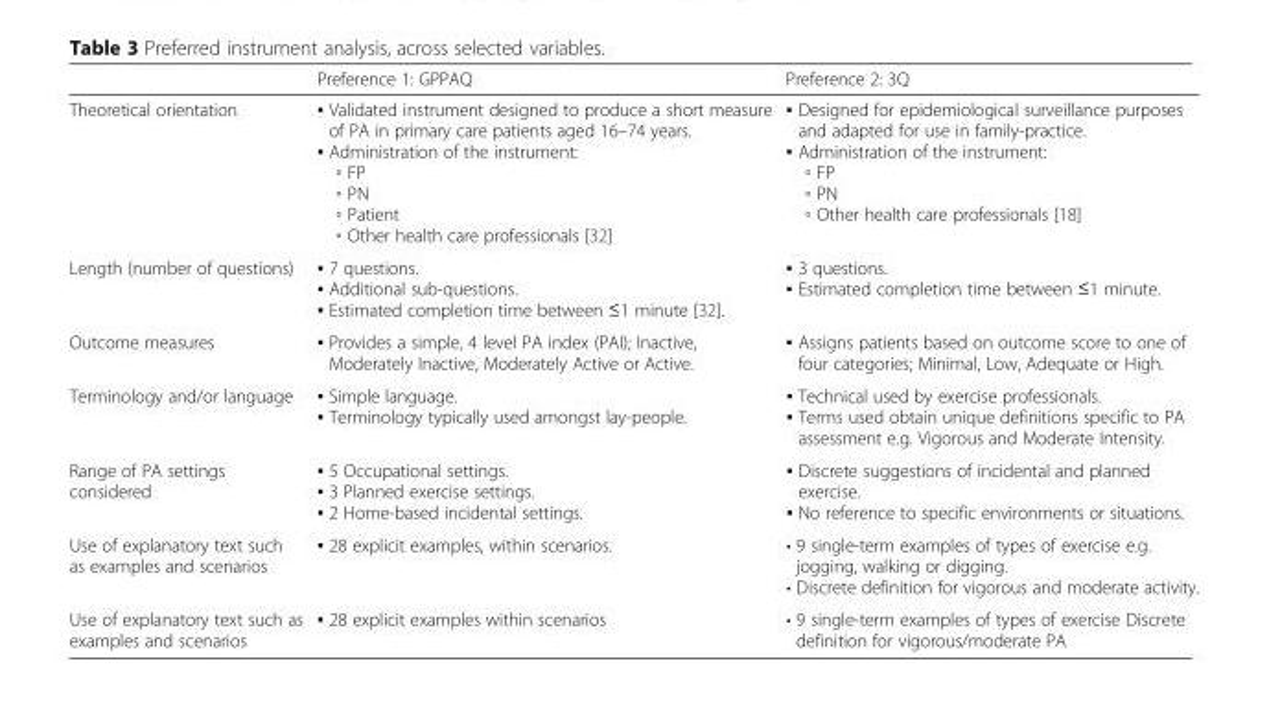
<table><thead><tr><td></td><td>Preference 1: GPPAQ</td><td>Preference 2: 3Q</td></tr></thead><tbody><tr><td>Theoretical orientation</td><td>▪ Validated instrument designed to produce a short measure of PA in primary care patients aged 16–74 years. ▪ Administration of the instrument: ◦ FP ◦ PN ◦ Patient ◦ Other health care professionals [32]</td><td>▪ Designed for epidemiological surveillance purposes and adapted for use in family-practice. ▪ Administration of the instrument: ◦ FP ◦ PN ◦ Other health care professionals [18]</td></tr><tr><td>Length (number of questions)</td><td>▪ 7 questions. ▪ Additional sub-questions. ▪ Estimated completion time between ≤1 minute [32].</td><td>▪ 3 questions. ▪ Estimated completion time between ≤1 minute.</td></tr><tr><td>Outcome measures</td><td>▪ Provides a simple, 4 level PA index (PAI); Inactive, Moderately Inactive, Moderately Active or Active.</td><td>▪ Assigns patients based on outcome score to one of four categories; Minimal, Low, Adequate or High.</td></tr><tr><td>Terminology and/or language</td><td>▪ Simple language. ▪ Terminology typically used amongst lay-people.</td><td>▪ Technical used by exercise professionals. ▪ Terms used obtain unique definitions specific to PA assessment e.g. Vigorous and Moderate Intensity.</td></tr><tr><td>Range of PA settings considered</td><td>▪ 5 Occupational settings. ▪ 3 Planned exercise settings. ▪ 2 Home-based incidental settings.</td><td>▪ Discrete suggestions of incidental and planned exercise. ▪ No reference to specific environments or situations.</td></tr><tr><td>Use of explanatory text such as examples and scenarios</td><td>▪ 28 explicit examples, within scenarios.</td><td>• 9 single-term examples of types of exercise e.g. jogging, walking or digging. • Discrete definition for vigorous and moderate activity.</td></tr><tr><td>Use of explanatory text such as examples and scenarios</td><td>▪ 28 explicit examples within scenarios</td><td>• 9 single-term examples of types of exercise Discrete definition for vigorous/moderate PA</td></tr></tbody></table>